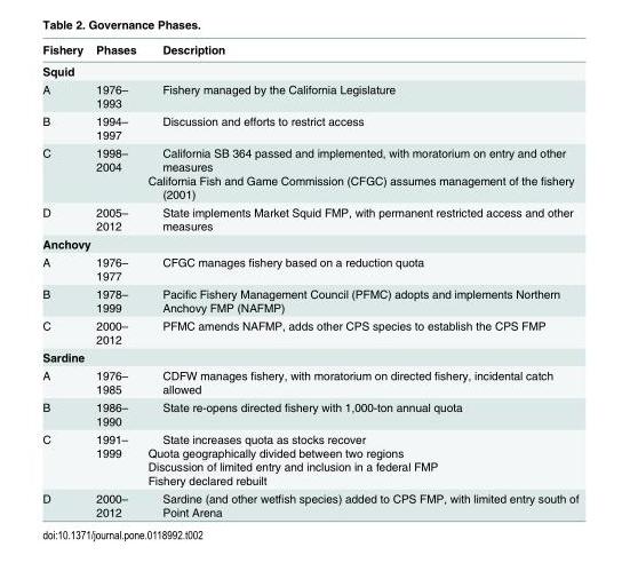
<table><thead><tr><td>Fishery</td><td>Phases</td><td>Description</td></tr></thead><tbody><tr><td colspan="3">Squid</td></tr><tr><td>A</td><td>1976– 1993</td><td>Fishery managed by the California Legislature</td></tr><tr><td>B</td><td>1994– 1997</td><td>Discussion and efforts to restrict access</td></tr><tr><td>C</td><td>1998– 2004</td><td>California SB 364 passed and implemented, with moratorium on entry and other measures California Fish and Game Commission (CFGC) assumes management of the fishery (2001)</td></tr><tr><td>D</td><td>2005– 2012</td><td>State implements Market Squid FMP, with permanent restricted access and other measures</td></tr><tr><td colspan="3">Anchovy</td></tr><tr><td>A</td><td>1976– 1977</td><td>CFGC manages fishery based on a reduction quota</td></tr><tr><td>B</td><td>1978– 1999</td><td>Pacific Fishery Management Council (PFMC) adopts and implements Northern Anchovy FMP (NAFMP)</td></tr><tr><td>C</td><td>2000– 2012</td><td>PFMC amends NAFMP, adds other CPS species to establish the CPS FMP</td></tr><tr><td colspan="3">Sardine</td></tr><tr><td>A</td><td>1976– 1985</td><td>CDFW manages fishery, with moratorium on directed fishery, incidental catch allowed</td></tr><tr><td>B</td><td>1986– 1990</td><td>State re-opens directed fishery with 1,000-ton annual quota</td></tr><tr><td>C</td><td>1991– 1999</td><td>State increases quota as stocks recover Quota geographically divided between two regions Discussion of limited entry and inclusion in a federal FMP Fishery declared rebuilt</td></tr><tr><td>D</td><td>2000– 2012</td><td>Sardine (and other wetfish species) added to CPS FMP, with limited entry south of Point Arena</td></tr></tbody></table>